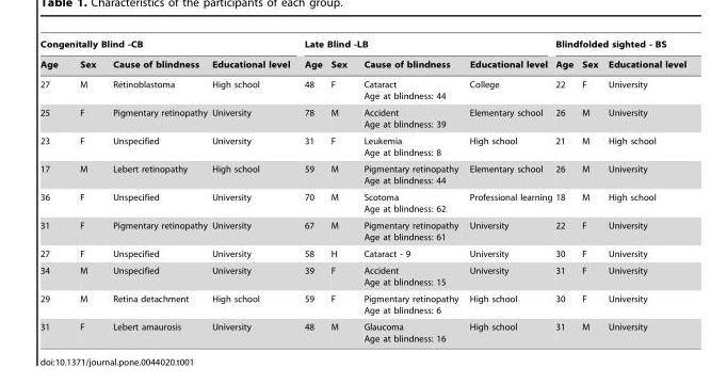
<table><thead><tr><td colspan="4">Congenitally Blind -CB</td><td colspan="4">Late Blind -LB</td><td colspan="3">Blindfolded sighted - BS</td></tr><tr><td>Age</td><td>Sex</td><td>Cause of blindness</td><td>Educational level</td><td>Age</td><td>Sex</td><td>Cause of blindness</td><td>Educational level</td><td>Age</td><td>Sex</td><td>Educational level</td></tr></thead><tbody><tr><td>27</td><td>M</td><td>Re´tinoblastoma</td><td>High school</td><td>48</td><td>F</td><td>Cataract Age at blindness: 44</td><td>College</td><td>22</td><td>F</td><td>University</td></tr><tr><td>25</td><td>F</td><td>Pigmentary retinopathy</td><td>University</td><td>78</td><td>M</td><td>Accident Age at blindness: 39</td><td>Elementary school</td><td>26</td><td>M</td><td>University</td></tr><tr><td>23</td><td>F</td><td>Unspecified</td><td>University</td><td>31</td><td>F</td><td>Leukemia Age at blindness: 8</td><td>High school</td><td>21</td><td>M</td><td>High school</td></tr><tr><td>17</td><td>M</td><td>Lebert retinopathy</td><td>High school</td><td>59</td><td>M</td><td>Pigmentary retinopathy Age at blindness: 44</td><td>Elementary school</td><td>26</td><td>M</td><td>University</td></tr><tr><td>36</td><td>F</td><td>Unspecified</td><td>University</td><td>70</td><td>M</td><td>Scotoma Age at blindness: 62</td><td>Professional learning</td><td>18</td><td>M</td><td>High school</td></tr><tr><td>31</td><td>F</td><td>Pigmentary retinopathy</td><td>University</td><td>67</td><td>M</td><td>Pigmentary retinopathy Age at blindness: 61</td><td>University</td><td>22</td><td>F</td><td>University</td></tr><tr><td>27</td><td>F</td><td>Unspecified</td><td>University</td><td>58</td><td>H</td><td>Cataract - 9</td><td>University</td><td>30</td><td>F</td><td>University</td></tr><tr><td>34</td><td>M</td><td>Unspecified</td><td>University</td><td>39</td><td>F</td><td>Accident Age at blindness: 15</td><td>University</td><td>31</td><td>F</td><td>University</td></tr><tr><td>29</td><td>M</td><td>Retina detachment</td><td>High school</td><td>59</td><td>F</td><td>Pigmentary retinopathy Age at blindness: 6</td><td>High school</td><td>30</td><td>F</td><td>University</td></tr><tr><td>31</td><td>F</td><td>Lebert amaurosis</td><td>University</td><td>48</td><td>M</td><td>Glaucoma Age at blindness: 16</td><td>High school</td><td>31</td><td>M</td><td>University</td></tr></tbody></table>